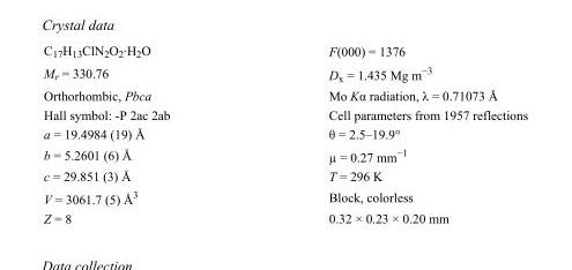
<table><tbody><tr><td>C<sub>17</sub>H<sub>13</sub>ClN<sub>2</sub>O<sub>2</sub>·H<sub>2</sub>O</td><td>F(000) = 1376</td></tr><tr><td>M<sub>r</sub> = 330.76</td><td>D<sub>x</sub> = 1.435 Mg m<sup>−3</sup></td></tr><tr><td>Orthorhombic, Pbca</td><td>Mo Kα radiation, λ = 0.71073 Å</td></tr><tr><td>Hall symbol: -P 2ac 2ab</td><td>Cell parameters from 1957 reflections</td></tr><tr><td>a = 19.4984 (19) Å</td><td>θ = 2.5–19.9°</td></tr><tr><td>b = 5.2601 (6) Å</td><td>µ = 0.27 mm<sup>−1</sup></td></tr><tr><td>c = 29.851 (3) Å</td><td>T = 296 K</td></tr><tr><td>V = 3061.7 (5) Å<sup>3</sup></td><td>Block, colorless</td></tr><tr><td>Z = 8</td><td>0.32 × 0.23 × 0.20 mm</td></tr></tbody></table>